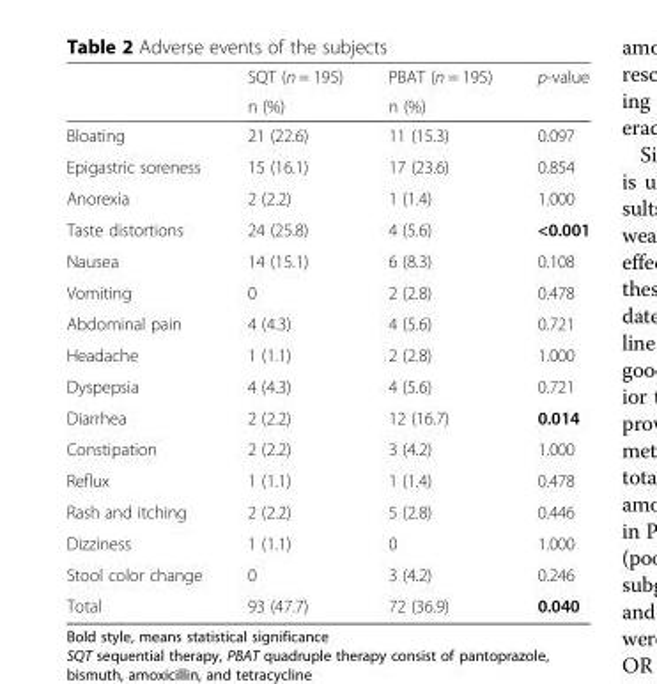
<table><thead><tr><td rowspan="2"></td><td rowspan="2">SQT (n = 195) n (%)</td><td rowspan="2">PBAT (n = 195) n (%)</td><td rowspan="2">p-value</td></tr><tr></tr></thead><tbody><tr><td>Bloating</td><td>21 (22.6)</td><td>11 (15.3)</td><td>0.097</td></tr><tr><td>Epigastric soreness</td><td>15 (16.1)</td><td>17 (23.6)</td><td>0.854</td></tr><tr><td>Anorexia</td><td>2 (2.2)</td><td>1 (1.4)</td><td>1.000</td></tr><tr><td>Taste distortions</td><td>24 (25.8)</td><td>4 (5.6)</td><td>&lt;0.001</td></tr><tr><td>Nausea</td><td>14 (15.1)</td><td>6 (8.3)</td><td>0.108</td></tr><tr><td>Vomiting</td><td>0</td><td>2 (2.8)</td><td>0.478</td></tr><tr><td>Abdominal pain</td><td>4 (4.3)</td><td>4 (5.6)</td><td>0.721</td></tr><tr><td>Headache</td><td>1 (1.1)</td><td>2 (2.8)</td><td>1.000</td></tr><tr><td>Dyspepsia</td><td>4 (4.3)</td><td>4 (5.6)</td><td>0.721</td></tr><tr><td>Diarrhea</td><td>2 (2.2)</td><td>12 (16.7)</td><td>0.014</td></tr><tr><td>Constipation</td><td>2 (2.2)</td><td>3 (4.2)</td><td>1.000</td></tr><tr><td>Reflux</td><td>1 (1.1)</td><td>1 (1.4)</td><td>0.478</td></tr><tr><td>Rash and itching</td><td>2 (2.2)</td><td>5 (2.8)</td><td>0.446</td></tr><tr><td>Dizziness</td><td>1 (1.1)</td><td>0</td><td>1.000</td></tr><tr><td>Stool color change</td><td>0</td><td>3 (4.2)</td><td>0.246</td></tr><tr><td>Total</td><td>93 (47.7)</td><td>72 (36.9)</td><td>0.040</td></tr></tbody></table>